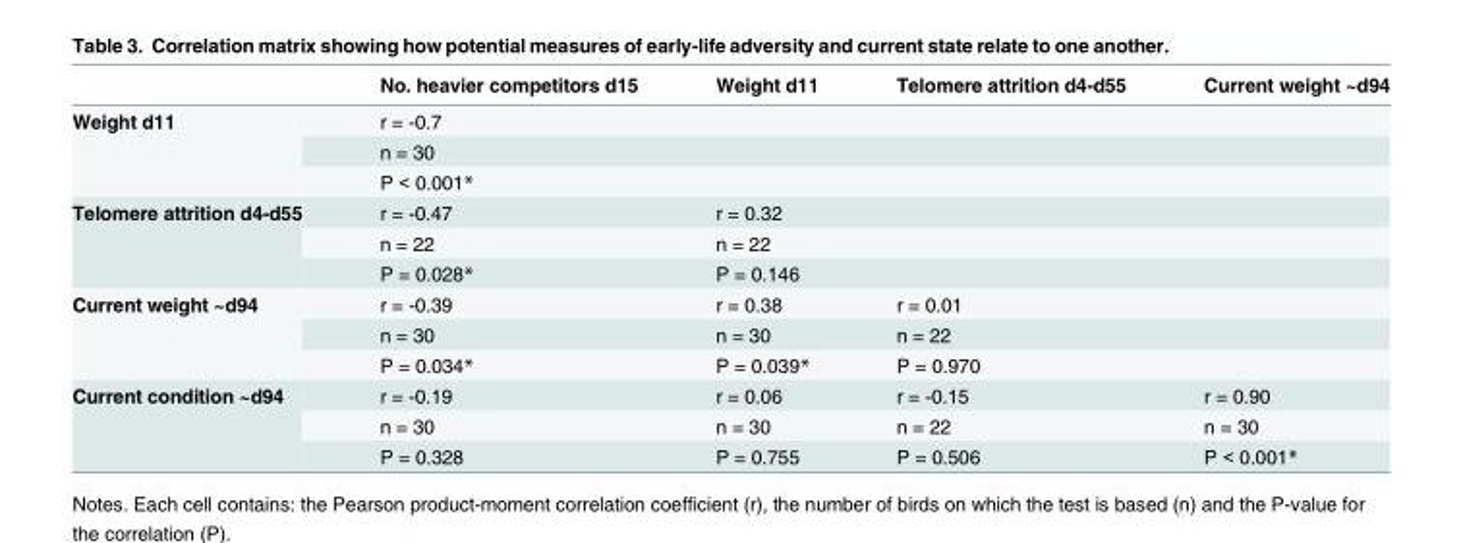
<table><thead><tr><td></td><td>No. heavier competitors d15</td><td>Weight d11</td><td>Telomere attrition d4-d55</td><td>Current weight ~d94</td></tr></thead><tbody><tr><td rowspan="3">Weight d11</td><td>r = -0.7</td><td></td><td></td><td></td></tr><tr><td>n = 30</td><td></td><td></td><td></td></tr><tr><td>P &lt; 0.001*</td><td></td><td></td><td></td></tr><tr><td rowspan="3">Telomere attrition d4-d55</td><td>r = -0.47</td><td>r = 0.32</td><td></td><td></td></tr><tr><td>n = 22</td><td>n = 22</td><td></td><td></td></tr><tr><td>P = 0.028*</td><td>P = 0.146</td><td></td><td></td></tr><tr><td rowspan="3">Current weight ~d94</td><td>r = -0.39</td><td>r = 0.38</td><td>r = 0.01</td><td></td></tr><tr><td>n = 30</td><td>n = 30</td><td>n = 22</td><td></td></tr><tr><td>P = 0.034*</td><td>P = 0.039*</td><td>P = 0.970</td><td></td></tr><tr><td rowspan="3">Current condition ~d94</td><td>r = -0.19</td><td>r = 0.06</td><td>r = -0.15</td><td>r = 0.90</td></tr><tr><td>n = 30</td><td>n = 30</td><td>n = 22</td><td>n = 30</td></tr><tr><td>P = 0.328</td><td>P = 0.755</td><td>P = 0.506</td><td>P &lt; 0.001*</td></tr></tbody></table>